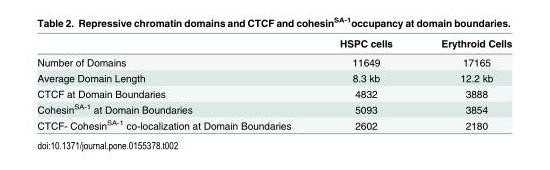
<table><thead><tr><td></td><td>HSPC cells</td><td>Erythroid Cells</td></tr></thead><tbody><tr><td>Number of Domains</td><td>11649</td><td>17165</td></tr><tr><td>Average Domain Length</td><td>8.3 kb</td><td>12.2 kb</td></tr><tr><td>CTCF at Domain Boundaries</td><td>4832</td><td>3888</td></tr><tr><td>Cohesin<sup>SA-1</sup> at Domain Boundaries</td><td>5093</td><td>3854</td></tr><tr><td>CTCF- Cohesin<sup>SA-1</sup> co-localization at Domain Boundaries</td><td>2602</td><td>2180</td></tr></tbody></table>